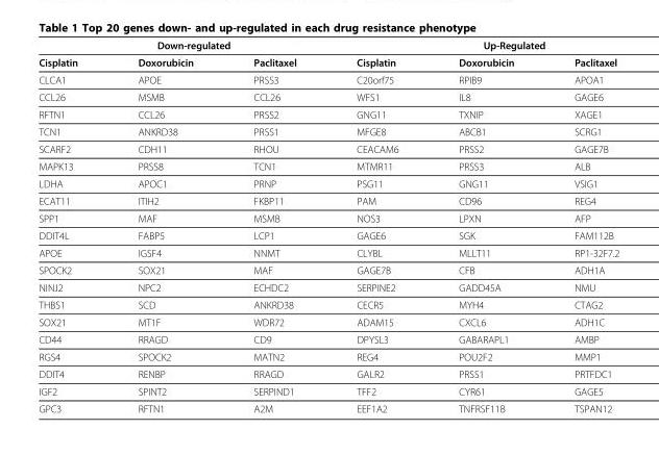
<table><thead><tr><td colspan="3">Down-regulated</td><td colspan="3">Up-Regulated</td></tr><tr><td>Cisplatin</td><td>Doxorubicin</td><td>Paclitaxel</td><td>Cisplatin</td><td>Doxorubicin</td><td>Paclitaxel</td></tr></thead><tbody><tr><td>CLCA1</td><td>APOE</td><td>PRSS3</td><td>C20orf75</td><td>RPIB9</td><td>APOA1</td></tr><tr><td>CCL26</td><td>MSMB</td><td>CCL26</td><td>WFS1</td><td>IL8</td><td>GAGE6</td></tr><tr><td>RFTN1</td><td>CCL26</td><td>PRSS2</td><td>GNG11</td><td>TXNIP</td><td>XAGE1</td></tr><tr><td>TCN1</td><td>ANKRD38</td><td>PRSS1</td><td>MFGE8</td><td>ABCB1</td><td>SCRG1</td></tr><tr><td>SCARF2</td><td>CDH11</td><td>RHOU</td><td>CEACAM6</td><td>PRSS2</td><td>GAGE7B</td></tr><tr><td>MAPK13</td><td>PRSS8</td><td>TCN1</td><td>MTMR11</td><td>PRSS3</td><td>ALB</td></tr><tr><td>LDHA</td><td>APOC1</td><td>PRNP</td><td>PSG11</td><td>GNG11</td><td>VSIG1</td></tr><tr><td>ECAT11</td><td>ITIH2</td><td>FKBP11</td><td>PAM</td><td>CD96</td><td>REG4</td></tr><tr><td>SPP1</td><td>MAF</td><td>MSMB</td><td>NOS3</td><td>LPXN</td><td>AFP</td></tr><tr><td>DDIT4L</td><td>FABP5</td><td>LCP1</td><td>GAGE6</td><td>SGK</td><td>FAM112B</td></tr><tr><td>APOE</td><td>IGSF4</td><td>NNMT</td><td>CLYBL</td><td>MLLT11</td><td>RP1-32F7.2</td></tr><tr><td>SPOCK2</td><td>SOX21</td><td>MAF</td><td>GAGE7B</td><td>CFB</td><td>ADH1A</td></tr><tr><td>NINJ2</td><td>NPC2</td><td>ECHDC2</td><td>SERPINE2</td><td>GADD45A</td><td>NMU</td></tr><tr><td>THBS1</td><td>SCD</td><td>ANKRD38</td><td>CECR5</td><td>MYH4</td><td>CTAG2</td></tr><tr><td>SOX21</td><td>MT1F</td><td>WDR72</td><td>ADAM15</td><td>CXCL6</td><td>ADH1C</td></tr><tr><td>CD44</td><td>RRAGD</td><td>CD9</td><td>DPYSL3</td><td>GABARAPL1</td><td>AMBP</td></tr><tr><td>RGS4</td><td>SPOCK2</td><td>MATN2</td><td>REG4</td><td>POU2F2</td><td>MMP1</td></tr><tr><td>DDIT4</td><td>RENBP</td><td>RRAGD</td><td>GALR2</td><td>PRSS1</td><td>PRTFDC1</td></tr><tr><td>IGF2</td><td>SPINT2</td><td>SERPIND1</td><td>TFF2</td><td>CYR61</td><td>GAGE5</td></tr><tr><td>GPC3</td><td>RFTN1</td><td>A2M</td><td>EEF1A2</td><td>TNFRSF11B</td><td>TSPAN12</td></tr></tbody></table>